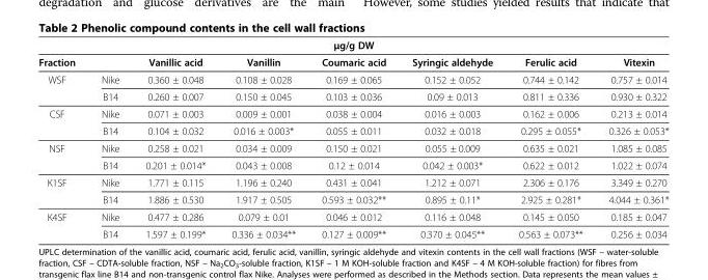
<table><thead><tr><td colspan="8">μg/g DW</td></tr><tr><td>Fraction</td><td></td><td>Vanillic acid</td><td>Vanillin</td><td>Coumaric acid</td><td>Syringic aldehyde</td><td>Ferulic acid</td><td>Vitexin</td></tr></thead><tbody><tr><td rowspan="2">WSF</td><td>Nike</td><td>0.360 ± 0.048</td><td>0.108 ± 0.028</td><td>0.169 ± 0.065</td><td>0.152 ± 0.052</td><td>0.744 ± 0.142</td><td>0.757 ± 0.014</td></tr><tr><td>B14</td><td>0.260 ± 0.007</td><td>0.150 ± 0.045</td><td>0.103 ± 0.036</td><td>0.09 ± 0.013</td><td>0.811 ± 0.336</td><td>0.930 ± 0.322</td></tr><tr><td rowspan="2">CSF</td><td>Nike</td><td>0.071 ± 0.003</td><td>0.009 ± 0.001</td><td>0.038 ± 0.004</td><td>0.016 ± 0.003</td><td>0.162 ± 0.006</td><td>0.213 ± 0.014</td></tr><tr><td>B14</td><td>0.104 ± 0.032</td><td>0.016 ± 0.003*</td><td>0.055 ± 0.011</td><td>0.032 ± 0.018</td><td>0.295 ± 0.055*</td><td>0.326 ± 0.053*</td></tr><tr><td rowspan="2">NSF</td><td>Nike</td><td>0.258 ± 0.021</td><td>0.034 ± 0.009</td><td>0.150 ± 0.021</td><td>0.055 ± 0.009</td><td>0.635 ± 0.021</td><td>1.085 ± 0.085</td></tr><tr><td>B14</td><td>0.201 ± 0.014*</td><td>0.043 ± 0.008</td><td>0.12 ± 0.014</td><td>0.042 ± 0.003*</td><td>0.622 ± 0.012</td><td>1.022 ± 0.074</td></tr><tr><td rowspan="2">K1SF</td><td>Nike</td><td>1.771 ± 0.115</td><td>1.196 ± 0.240</td><td>0.431 ± 0.041</td><td>1.212 ± 0.071</td><td>2.306 ± 0.176</td><td>3.349 ± 0.270</td></tr><tr><td>B14</td><td>1.886 ± 0.530</td><td>1.917 ± 0.505</td><td>0.593 ± 0.032**</td><td>0.895 ± 0.11*</td><td>2.925 ± 0.281*</td><td>4.044 ± 0.361*</td></tr><tr><td rowspan="2">K4SF</td><td>Nike</td><td>0.477 ± 0.286</td><td>0.079 ± 0.01</td><td>0.046 ± 0.012</td><td>0.116 ± 0.048</td><td>0.145 ± 0.050</td><td>0.185 ± 0.047</td></tr><tr><td>B14</td><td>1.597 ± 0.199*</td><td>0.336 ± 0.034**</td><td>0.127 ± 0.009**</td><td>0.370 ± 0.045**</td><td>0.563 ± 0.073**</td><td>0.256 ± 0.034</td></tr></tbody></table>